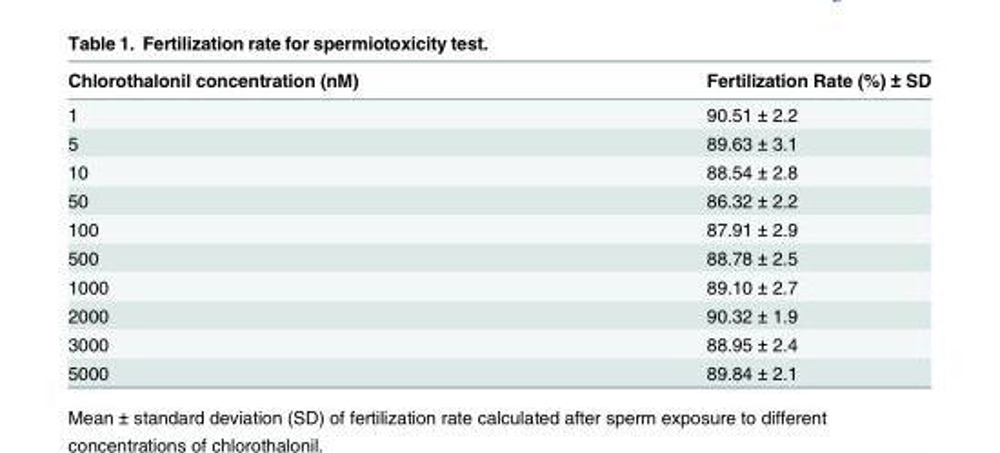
<table><thead><tr><td>Chlorothalonil concentration (nM)</td><td>Fertilization Rate (%) ± SD</td></tr></thead><tbody><tr><td>1</td><td>90.51 ± 2.2</td></tr><tr><td>5</td><td>89.63 ± 3.1</td></tr><tr><td>10</td><td>88.54 ± 2.8</td></tr><tr><td>50</td><td>86.32 ± 2.2</td></tr><tr><td>100</td><td>87.91 ± 2.9</td></tr><tr><td>500</td><td>88.78 ± 2.5</td></tr><tr><td>1000</td><td>89.10 ± 2.7</td></tr><tr><td>2000</td><td>90.32 ± 1.9</td></tr><tr><td>3000</td><td>88.95 ± 2.4</td></tr><tr><td>5000</td><td>89.84 ± 2.1</td></tr></tbody></table>